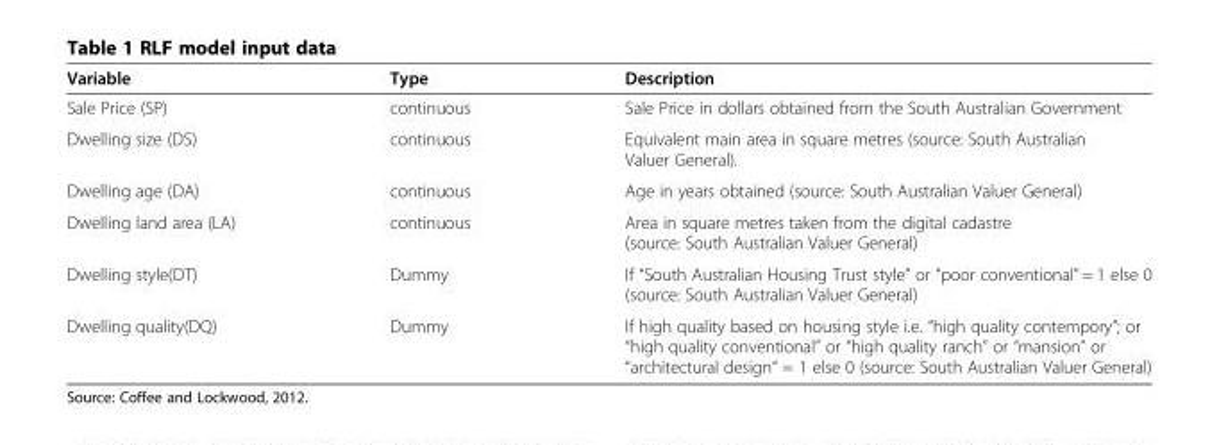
<table><thead><tr><td>Variable</td><td>Type</td><td>Description</td></tr></thead><tbody><tr><td>Sale Price (SP)</td><td>continuous</td><td>Sale Price in dollars obtained from the South Australian Government</td></tr><tr><td>Dwelling size (DS)</td><td>continuous</td><td>Equivalent main area in square metres (source: South Australian Valuer General).</td></tr><tr><td>Dwelling age (DA)</td><td>continuous</td><td>Age in years obtained (source: South Australian Valuer General)</td></tr><tr><td>Dwelling land area (LA)</td><td>continuous</td><td>Area in square metres taken from the digital cadastre (source: South Australian Valuer General)</td></tr><tr><td>Dwelling style(DT)</td><td>Dummy</td><td>If “South Australian Housing Trust style” or “poor conventional” = 1 else 0 (source: South Australian Valuer General)</td></tr><tr><td>Dwelling quality(DQ)</td><td>Dummy</td><td>If high quality based on housing style i.e. “high quality contempory”; or “high quality conventional” or “high quality ranch” or “mansion” or “architectural design“ = 1 else 0 (source: South Australian Valuer General)</td></tr></tbody></table>